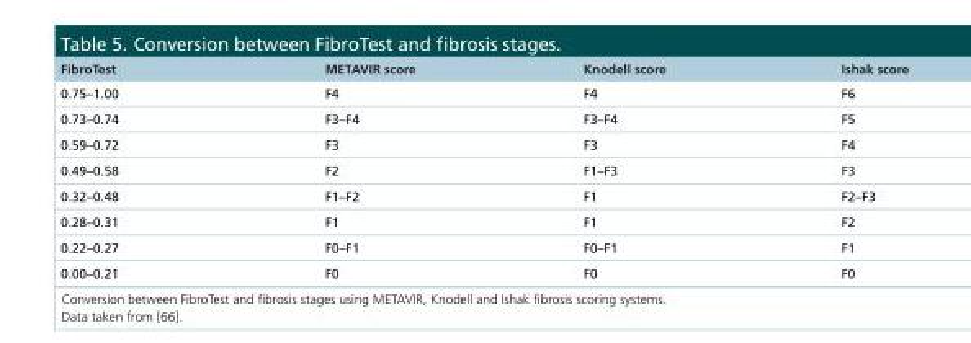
<table><thead><tr><td>FibroTest</td><td>METAVIR score</td><td>Knodell score</td><td>Ishak score</td></tr></thead><tbody><tr><td>0.75–1.00</td><td>F4</td><td>F4</td><td>F6</td></tr><tr><td>0.73–0.74</td><td>F3–F4</td><td>F3–F4</td><td>F5</td></tr><tr><td>0.59–0.72</td><td>F3</td><td>F3</td><td>F4</td></tr><tr><td>0.49–0.58</td><td>F2</td><td>F1–F3</td><td>F3</td></tr><tr><td>0.32–0.48</td><td>F1–F2</td><td>F1</td><td>F2–F3</td></tr><tr><td>0.28–0.31</td><td>F1</td><td>F1</td><td>F2</td></tr><tr><td>0.22–0.27</td><td>F0–F1</td><td>F0–F1</td><td>F1</td></tr><tr><td>0.00–0.21</td><td>F0</td><td>F0</td><td>F0</td></tr></tbody></table>